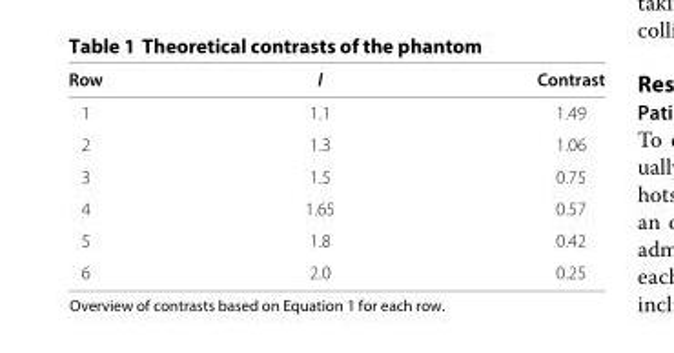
<table><thead><tr><td>Row</td><td>l</td><td>Contrast</td></tr></thead><tbody><tr><td>1</td><td>1.1</td><td>1.49</td></tr><tr><td>2</td><td>1.3</td><td>1.06</td></tr><tr><td>3</td><td>1.5</td><td>0.75</td></tr><tr><td>4</td><td>1.65</td><td>0.57</td></tr><tr><td>5</td><td>1.8</td><td>0.42</td></tr><tr><td>6</td><td>2.0</td><td>0.25</td></tr></tbody></table>